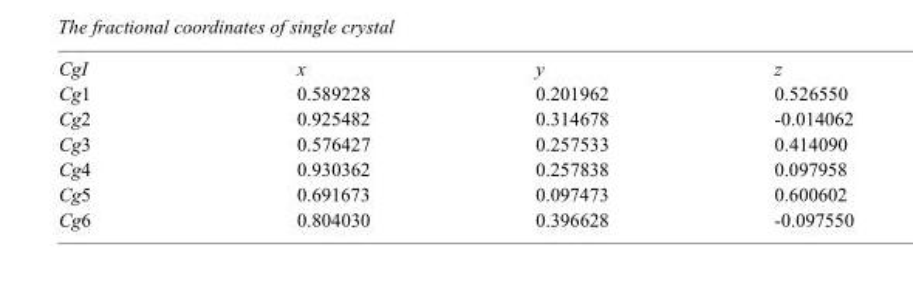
<table><tbody><tr><td>CgI</td><td>x</td><td>y</td><td>z</td></tr><tr><td>Cg1</td><td>0.589228</td><td>0.201962</td><td>0.526550</td></tr><tr><td>Cg2</td><td>0.925482</td><td>0.314678</td><td>-0.014062</td></tr><tr><td>Cg3</td><td>0.576427</td><td>0.257533</td><td>0.414090</td></tr><tr><td>Cg4</td><td>0.930362</td><td>0.257838</td><td>0.097958</td></tr><tr><td>Cg5</td><td>0.691673</td><td>0.097473</td><td>0.600602</td></tr><tr><td>Cg6</td><td>0.804030</td><td>0.396628</td><td>-0.097550</td></tr></tbody></table>